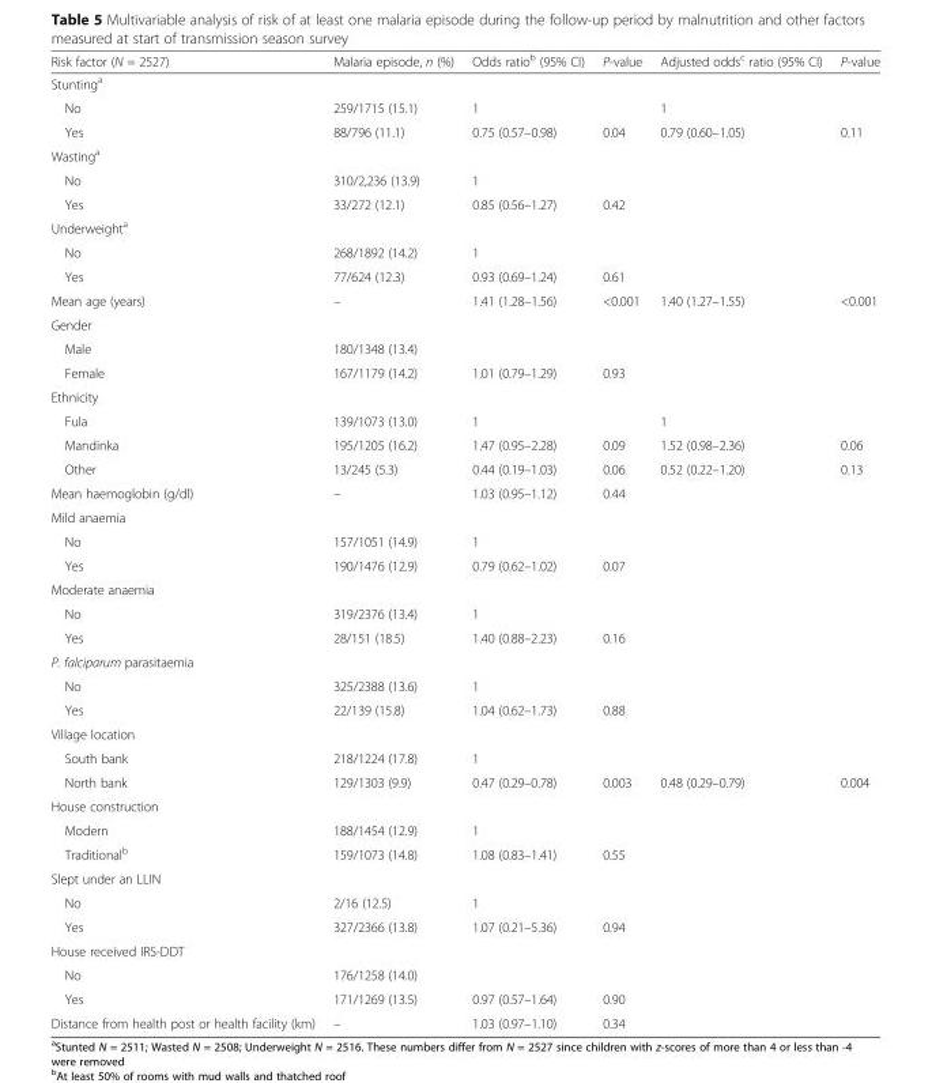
<table><thead><tr><td>Risk factor (N = 2527)</td><td>Malaria episode, n (%)</td><td>Odds ratio<sup>b</sup> (95% CI)</td><td>P-value</td><td>Adjusted odds<sup>c</sup> ratio (95% CI)</td><td>P-value</td></tr></thead><tbody><tr><td colspan="6">Stunting<sup>a</sup></td></tr><tr><td>No</td><td>259/1715 (15.1)</td><td>1</td><td></td><td>1</td><td></td></tr><tr><td>Yes</td><td>88/796 (11.1)</td><td>0.75 (0.57–0.98)</td><td>0.04</td><td>0.79 (0.60–1.05)</td><td>0.11</td></tr><tr><td colspan="6">Wasting<sup>a</sup></td></tr><tr><td>No</td><td>310/2,236 (13.9)</td><td>1</td><td></td><td></td><td></td></tr><tr><td>Yes</td><td>33/272 (12.1)</td><td>0.85 (0.56–1.27)</td><td>0.42</td><td></td><td></td></tr><tr><td colspan="6">Underweight<sup>a</sup></td></tr><tr><td>No</td><td>268/1892 (14.2)</td><td>1</td><td></td><td></td><td></td></tr><tr><td>Yes</td><td>77/624 (12.3)</td><td>0.93 (0.69–1.24)</td><td>0.61</td><td></td><td></td></tr><tr><td>Mean age (years)</td><td>–</td><td>1.41 (1.28–1.56)</td><td>&lt;0.001</td><td>1.40 (1.27–1.55)</td><td>&lt;0.001</td></tr><tr><td colspan="6">Gender</td></tr><tr><td>Male</td><td>180/1348 (13.4)</td><td></td><td></td><td></td><td></td></tr><tr><td>Female</td><td>167/1179 (14.2)</td><td>1.01 (0.79–1.29)</td><td>0.93</td><td></td><td></td></tr><tr><td colspan="6">Ethnicity</td></tr><tr><td>Fula</td><td>139/1073 (13.0)</td><td>1</td><td></td><td>1</td><td></td></tr><tr><td>Mandinka</td><td>195/1205 (16.2)</td><td>1.47 (0.95–2.28)</td><td>0.09</td><td>1.52 (0.98–2.36)</td><td>0.06</td></tr><tr><td>Other</td><td>13/245 (5.3)</td><td>0.44 (0.19–1.03)</td><td>0.06</td><td>0.52 (0.22–1.20)</td><td>0.13</td></tr><tr><td>Mean haemoglobin (g/dl)</td><td>–</td><td>1.03 (0.95–1.12)</td><td>0.44</td><td></td><td></td></tr><tr><td colspan="6">Mild anaemia</td></tr><tr><td>No</td><td>157/1051 (14.9)</td><td>1</td><td></td><td></td><td></td></tr><tr><td>Yes</td><td>190/1476 (12.9)</td><td>0.79 (0.62–1.02)</td><td>0.07</td><td></td><td></td></tr><tr><td colspan="6">Moderate anaemia</td></tr><tr><td>No</td><td>319/2376 (13.4)</td><td>1</td><td></td><td></td><td></td></tr><tr><td>Yes</td><td>28/151 (18.5)</td><td>1.40 (0.88–2.23)</td><td>0.16</td><td></td><td></td></tr><tr><td colspan="6">P. falciparum parasitaemia</td></tr><tr><td>No</td><td>325/2388 (13.6)</td><td>1</td><td></td><td></td><td></td></tr><tr><td>Yes</td><td>22/139 (15.8)</td><td>1.04 (0.62–1.73)</td><td>0.88</td><td></td><td></td></tr><tr><td colspan="6">Village location</td></tr><tr><td>South bank</td><td>218/1224 (17.8)</td><td>1</td><td></td><td></td><td></td></tr><tr><td>North bank</td><td>129/1303 (9.9)</td><td>0.47 (0.29–0.78)</td><td>0.003</td><td>0.48 (0.29–0.79)</td><td>0.004</td></tr><tr><td colspan="6">House construction</td></tr><tr><td>Modern</td><td>188/1454 (12.9)</td><td>1</td><td></td><td></td><td></td></tr><tr><td>Traditional<sup>b</sup></td><td>159/1073 (14.8)</td><td>1.08 (0.83–1.41)</td><td>0.55</td><td></td><td></td></tr><tr><td colspan="6">Slept under an LLIN</td></tr><tr><td>No</td><td>2/16 (12.5)</td><td>1</td><td></td><td></td><td></td></tr><tr><td>Yes</td><td>327/2366 (13.8)</td><td>1.07 (0.21–5.36)</td><td>0.94</td><td></td><td></td></tr><tr><td colspan="6">House received IRS-DDT</td></tr><tr><td>No</td><td>176/1258 (14.0)</td><td></td><td></td><td></td><td></td></tr><tr><td>Yes</td><td>171/1269 (13.5)</td><td>0.97 (0.57–1.64)</td><td>0.90</td><td></td><td></td></tr><tr><td>Distance from health post or health facility (km)</td><td>–</td><td>1.03 (0.97–1.10)</td><td>0.34</td><td></td><td></td></tr></tbody></table>